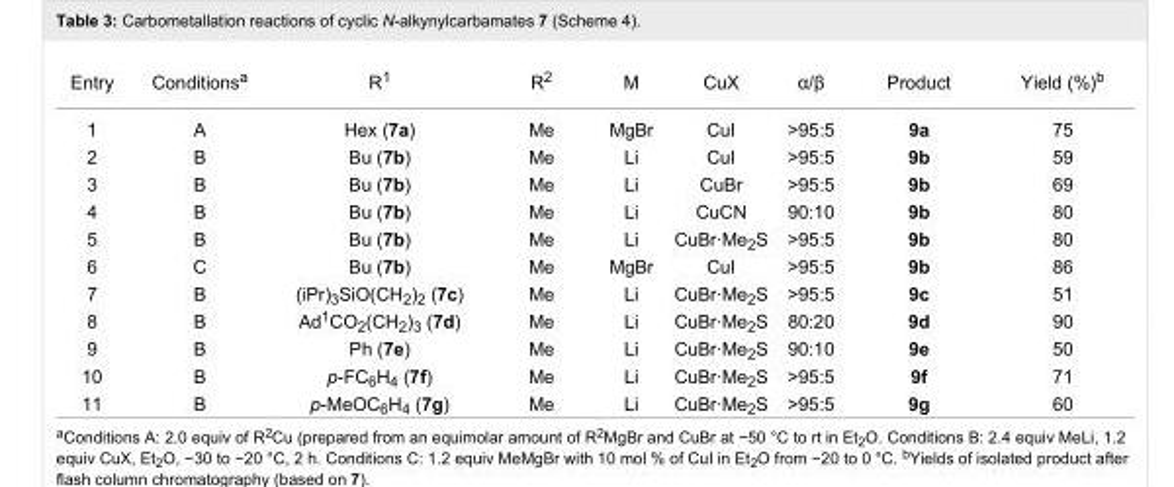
<table><tbody><tr><td>Entry</td><td>Conditions<sup>a</sup></td><td>R<sup>1</sup></td><td>R<sup>2</sup></td><td>M</td><td>CuX</td><td>α/β</td><td>Product</td><td>Yield (%)<sup>b</sup></td></tr><tr><td>1</td><td>A</td><td>Hex (7a)</td><td>Me</td><td>MgBr</td><td>CuI</td><td>&gt;95:5</td><td>9a</td><td>75</td></tr><tr><td>2</td><td>B</td><td>Bu (7b)</td><td>Me</td><td>Li</td><td>CuI</td><td>&gt;95:5</td><td>9b</td><td>59</td></tr><tr><td>3</td><td>B</td><td>Bu (7b)</td><td>Me</td><td>Li</td><td>CuBr</td><td>&gt;95:5</td><td>9b</td><td>69</td></tr><tr><td>4</td><td>B</td><td>Bu (7b)</td><td>Me</td><td>Li</td><td>CuCN</td><td>90:10</td><td>9b</td><td>80</td></tr><tr><td>5</td><td>B</td><td>Bu (7b)</td><td>Me</td><td>Li</td><td>CuBr·Me<sub>2</sub>S</td><td>&gt;95:5</td><td>9b</td><td>80</td></tr><tr><td>6</td><td>C</td><td>Bu (7b)</td><td>Me</td><td>MgBr</td><td>CuI</td><td>&gt;95:5</td><td>9b</td><td>86</td></tr><tr><td>7</td><td>B</td><td>(iPr)<sub>3</sub>SiO(CH<sub>2</sub>)<sub>2</sub> (7c)</td><td>Me</td><td>Li</td><td>CuBr·Me<sub>2</sub>S</td><td>&gt;95:5</td><td>9c</td><td>51</td></tr><tr><td>8</td><td>B</td><td>Ad<sup>1</sup>CO<sub>2</sub>(CH<sub>2</sub>)<sub>3</sub> (7d)</td><td>Me</td><td>Li</td><td>CuBr·Me<sub>2</sub>S</td><td>80:20</td><td>9d</td><td>90</td></tr><tr><td>9</td><td>B</td><td>Ph (7e)</td><td>Me</td><td>Li</td><td>CuBr·Me<sub>2</sub>S</td><td>90:10</td><td>9e</td><td>50</td></tr><tr><td>10</td><td>B</td><td>p-FC<sub>6</sub>H<sub>4</sub> (7f)</td><td>Me</td><td>Li</td><td>CuBr·Me<sub>2</sub>S</td><td>&gt;95:5</td><td>9f</td><td>71</td></tr><tr><td>11</td><td>B</td><td>p-MeOC<sub>6</sub>H<sub>4</sub> (7g)</td><td>Me</td><td>Li</td><td>CuBr·Me<sub>2</sub>S</td><td>&gt;95:5</td><td>9g</td><td>60</td></tr></tbody></table>